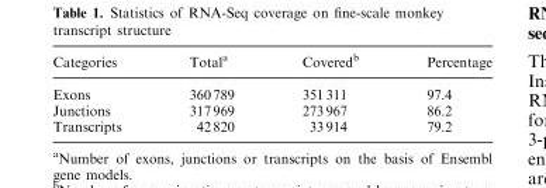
<table><thead><tr><td>Categories</td><td>Total<sup>a</sup></td><td>Covered<sup>b</sup></td><td>Percentage</td></tr></thead><tbody><tr><td>Exons</td><td>360 789</td><td>351 311</td><td>97.4</td></tr><tr><td>Junctions</td><td>317 969</td><td>273 967</td><td>86.2</td></tr><tr><td>Transcripts</td><td>42 820</td><td>33 914</td><td>79.2</td></tr></tbody></table>